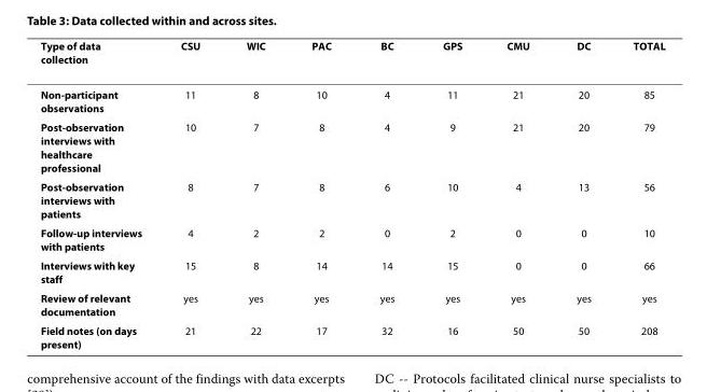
<table><thead><tr><td>Type of data collection</td><td>CSU</td><td>WIC</td><td>PAC</td><td>BC</td><td>GPS</td><td>CMU</td><td>DC</td><td>TOTAL</td></tr></thead><tbody><tr><td>Non-participant observations</td><td>11</td><td>8</td><td>10</td><td>4</td><td>11</td><td>21</td><td>20</td><td>85</td></tr><tr><td>Post-observation interviews with healthcare professional</td><td>10</td><td>7</td><td>8</td><td>4</td><td>9</td><td>21</td><td>20</td><td>79</td></tr><tr><td>Post-observation interviews with patients</td><td>8</td><td>7</td><td>8</td><td>6</td><td>10</td><td>4</td><td>13</td><td>56</td></tr><tr><td>Follow-up interviews with patients</td><td>4</td><td>2</td><td>2</td><td>0</td><td>2</td><td>0</td><td>0</td><td>10</td></tr><tr><td>Interviews with key staff</td><td>15</td><td>8</td><td>14</td><td>14</td><td>15</td><td>0</td><td>0</td><td>66</td></tr><tr><td>Review of relevant documentation</td><td>yes</td><td>yes</td><td>yes</td><td>yes</td><td>yes</td><td>yes</td><td>yes</td><td>yes</td></tr><tr><td>Field notes (on days present)</td><td>21</td><td>22</td><td>17</td><td>32</td><td>16</td><td>50</td><td>50</td><td>208</td></tr></tbody></table>